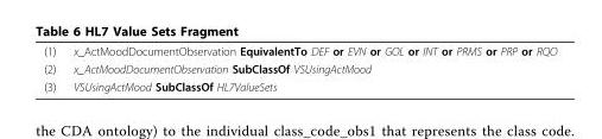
<table><tbody><tr><td>(1)</td><td>x_ActMoodDocumentObservation EquivalentTo DEF or EVN or GOL or INT or PRMS or PRP or RQO</td></tr><tr><td>(2)</td><td>x_ActMoodDocumentObservation SubClassOf VSUsingActMood</td></tr><tr><td>(3)</td><td>VSUsingActMood SubClassOf HL7ValueSets</td></tr></tbody></table>